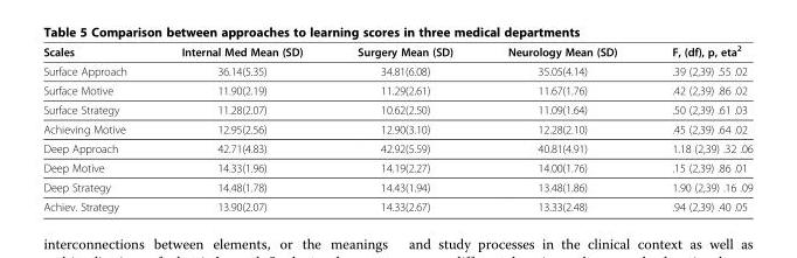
<table><thead><tr><td>Scales</td><td>Internal Med Mean (SD)</td><td>Surgery Mean (SD)</td><td>Neurology Mean (SD)</td><td>F, (df), p, eta<sup>2</sup></td></tr></thead><tbody><tr><td>Surface Approach</td><td>36.14(5.35)</td><td>34.81(6.08)</td><td>35.05(4.14)</td><td>.39 (2,39) .55 .02</td></tr><tr><td>Surface Motive</td><td>11.90(2.19)</td><td>11.29(2.61)</td><td>11.67(1.76)</td><td>.42 (2,39) .86 .02</td></tr><tr><td>Surface Strategy</td><td>11.28(2.07)</td><td>10.62(2.50)</td><td>11.09(1.64)</td><td>.50 (2,39) .61 .03</td></tr><tr><td>Achieving Motive</td><td>12.95(2.56)</td><td>12.90(3.10)</td><td>12.28(2.10)</td><td>.45 (2,39) .64 .02</td></tr><tr><td>Deep Approach</td><td>42.71(4.83)</td><td>42.92(5.59)</td><td>40.81(4.91)</td><td>1.18 (2,39) .32 .06</td></tr><tr><td>Deep Motive</td><td>14.33(1.96)</td><td>14.19(2.27)</td><td>14.00(1.76)</td><td>.15 (2,39) .86 .01</td></tr><tr><td>Deep Strategy</td><td>14.48(1.78)</td><td>14.43(1.94)</td><td>13.48(1.86)</td><td>1.90 (2,39) .16 .09</td></tr><tr><td>Achiev. Strategy</td><td>13.90(2.07)</td><td>14.33(2.67)</td><td>13.33(2.48)</td><td>.94 (2,39) .40 .05</td></tr></tbody></table>